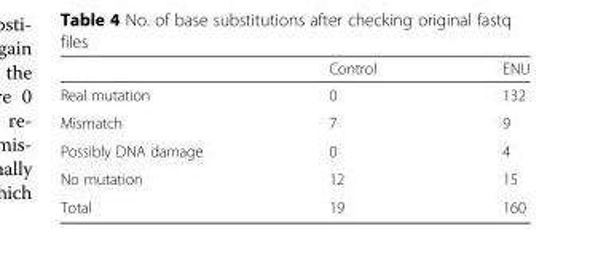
<table><thead><tr><td></td><td>Control</td><td>ENU</td></tr></thead><tbody><tr><td>Real mutation</td><td>0</td><td>132</td></tr><tr><td>Mismatch</td><td>7</td><td>9</td></tr><tr><td>Possibly DNA damage</td><td>0</td><td>4</td></tr><tr><td>No mutation</td><td>12</td><td>15</td></tr><tr><td>Total</td><td>19</td><td>160</td></tr></tbody></table>